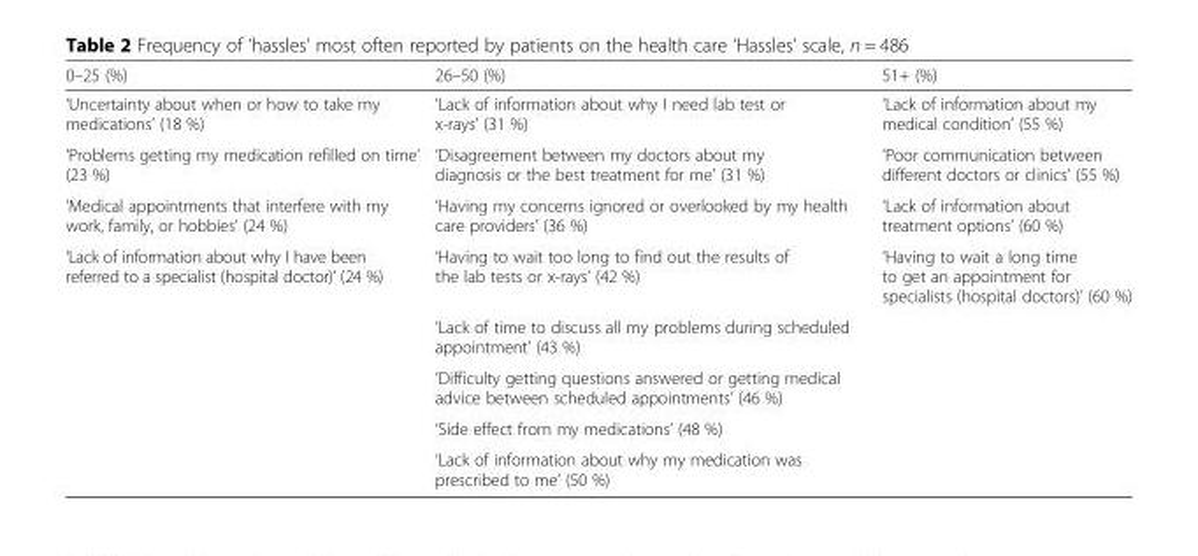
<table><thead><tr><td>0–25 (%)</td><td>26–50 (%)</td><td>51+ (%)</td></tr></thead><tbody><tr><td>‘Uncertainty about when or how to take my medications’ (18 %)</td><td>‘Lack of information about why I need lab test or x-rays’ (31 %)</td><td>‘Lack of information about my medical condition’ (55 %)</td></tr><tr><td>‘Problems getting my medication refilled on time’ (23 %)</td><td>‘Disagreement between my doctors about my diagnosis or the best treatment for me’ (31 %)</td><td>‘Poor communication between different doctors or clinics’ (55 %)</td></tr><tr><td>‘Medical appointments that interfere with my work, family, or hobbies’ (24 %)</td><td>‘Having my concerns ignored or overlooked by my health care providers’ (36 %)</td><td>‘Lack of information about treatment options’ (60 %)</td></tr><tr><td rowspan="5">‘Lack of information about why I have been referred to a specialist (hospital doctor)’ (24 %)</td><td>‘Having to wait too long to find out the results of the lab tests or x-rays’ (42 %)</td><td>‘Having to wait a long time to get an appointment for specialists (hospital doctors)’ (60 %)</td></tr><tr><td>‘Lack of time to discuss all my problems during scheduled appointment’ (43 %)</td><td></td></tr><tr><td>‘Difficulty getting questions answered or getting medical advice between scheduled appointments’ (46 %)</td><td></td></tr><tr><td>‘Side effect from my medications’ (48 %)</td><td></td></tr><tr><td>‘Lack of information about why my medication was prescribed to me’ (50 %)</td><td></td></tr></tbody></table>